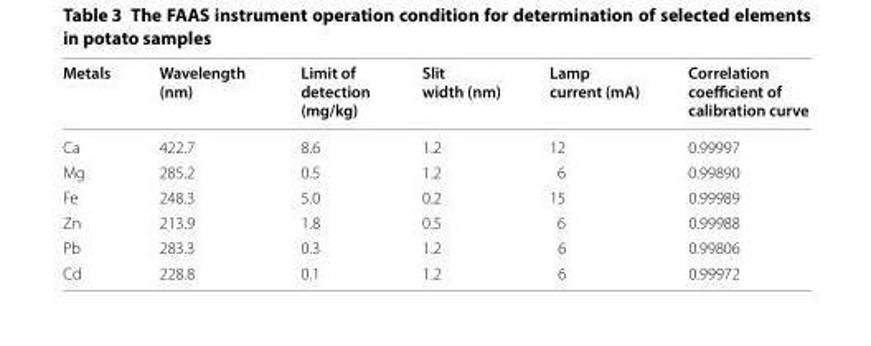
<table><thead><tr><td>Metals</td><td>Wavelength (nm)</td><td>Limit of detection (mg/kg)</td><td>Slit width (nm)</td><td>Lamp current (mA)</td><td>Correlation coefficient of calibration curve</td></tr></thead><tbody><tr><td>Ca</td><td>422.7</td><td>8.6</td><td>1.2</td><td>12</td><td>0.99997</td></tr><tr><td>Mg</td><td>285.2</td><td>0.5</td><td>1.2</td><td>6</td><td>0.99890</td></tr><tr><td>Fe</td><td>248.3</td><td>5.0</td><td>0.2</td><td>15</td><td>0.99989</td></tr><tr><td>Zn</td><td>213.9</td><td>1.8</td><td>0.5</td><td>6</td><td>0.99988</td></tr><tr><td>Pb</td><td>283.3</td><td>0.3</td><td>1.2</td><td>6</td><td>0.99806</td></tr><tr><td>Cd</td><td>228.8</td><td>0.1</td><td>1.2</td><td>6</td><td>0.99972</td></tr></tbody></table>